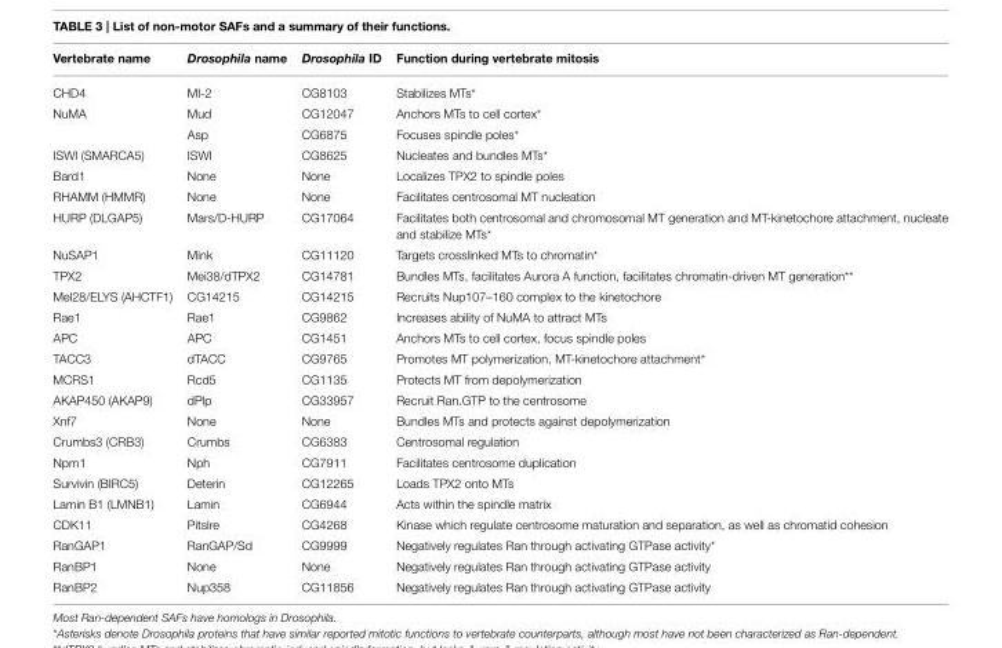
<table><thead><tr><td>Vertebrate name</td><td>Drosophila name</td><td>Drosophila ID</td><td>Function during vertebrate mitosis</td></tr></thead><tbody><tr><td>CHD4</td><td>MI-2</td><td>CG8103</td><td>Stabilizes MTs*</td></tr><tr><td rowspan="2">NuMA</td><td>Mud</td><td>CG12047</td><td>Anchors MTs to cell cortex*</td></tr><tr><td>Asp</td><td>CG6875</td><td>Focuses spindle poles*</td></tr><tr><td>ISWI (SMARCA5)</td><td>ISWI</td><td>CG8625</td><td>Nucleates and bundles MTs*</td></tr><tr><td>Bard1</td><td>None</td><td>None</td><td>Localizes TPX2 to spindle poles</td></tr><tr><td>RHAMM (HMMR)</td><td>None</td><td>None</td><td>Facilitates centrosomal MT nucleation</td></tr><tr><td>HURP (DLGAP5)</td><td>Mars/D-HURP</td><td>CG17064</td><td>Facilitates both centrosomal and chromosomal MT generation and MT-kinetochore attachment, nucleate and stabilize MTs*</td></tr><tr><td>NuSAP1</td><td>Mink</td><td>CG11120</td><td>Targets crosslinked MTs to chromatin*</td></tr><tr><td>TPX2</td><td>Mei38/dTPX2</td><td>CG14781</td><td>Bundles MTs, facilitates Aurora A function, facilitates chromatin-driven MT generation**</td></tr><tr><td>Mel28/ELYS (AHCTF1)</td><td>CG14215</td><td>CG14215</td><td>Recruits Nup107–160 complex to the kinetochore</td></tr><tr><td>Rae1</td><td>Rae1</td><td>CG9862</td><td>Increases ability of NuMA to attract MTs</td></tr><tr><td>APC</td><td>APC</td><td>CG1451</td><td>Anchors MTs to cell cortex, focus spindle poles</td></tr><tr><td>TACC3</td><td>dTACC</td><td>CG9765</td><td>Promotes MT polymerization, MT-kinetochore attachment*</td></tr><tr><td>MCRS1</td><td>Rcd5</td><td>CG1135</td><td>Protects MT from depolymerization</td></tr><tr><td>AKAP450 (AKAP9)</td><td>dPlp</td><td>CG33957</td><td>Recruit Ran.GTP to the centrosome</td></tr><tr><td>Xnf7</td><td>None</td><td>None</td><td>Bundles MTs and protects against depolymerization</td></tr><tr><td>Crumbs3 (CRB3)</td><td>Crumbs</td><td>CG6383</td><td>Centrosomal regulation</td></tr><tr><td>Npm1</td><td>Nph</td><td>CG7911</td><td>Facilitates centrosome duplication</td></tr><tr><td>Survivin (BIRC5)</td><td>Deterin</td><td>CG12265</td><td>Loads TPX2 onto MTs</td></tr><tr><td>Lamin B1 (LMNB1)</td><td>Lamin</td><td>CG6944</td><td>Acts within the spindle matrix</td></tr><tr><td>CDK11</td><td>Pitslre</td><td>CG4268</td><td>Kinase which regulate centrosome maturation and separation, as well as chromatid cohesion</td></tr><tr><td>RanGAP1</td><td>RanGAP/Sd</td><td>CG9999</td><td>Negatively regulates Ran through activating GTPase activity*</td></tr><tr><td>RanBP1</td><td>None</td><td>None</td><td>Negatively regulates Ran through activating GTPase activity</td></tr><tr><td>RanBP2</td><td>Nup358</td><td>CG11856</td><td>Negatively regulates Ran through activating GTPase activity</td></tr></tbody></table>